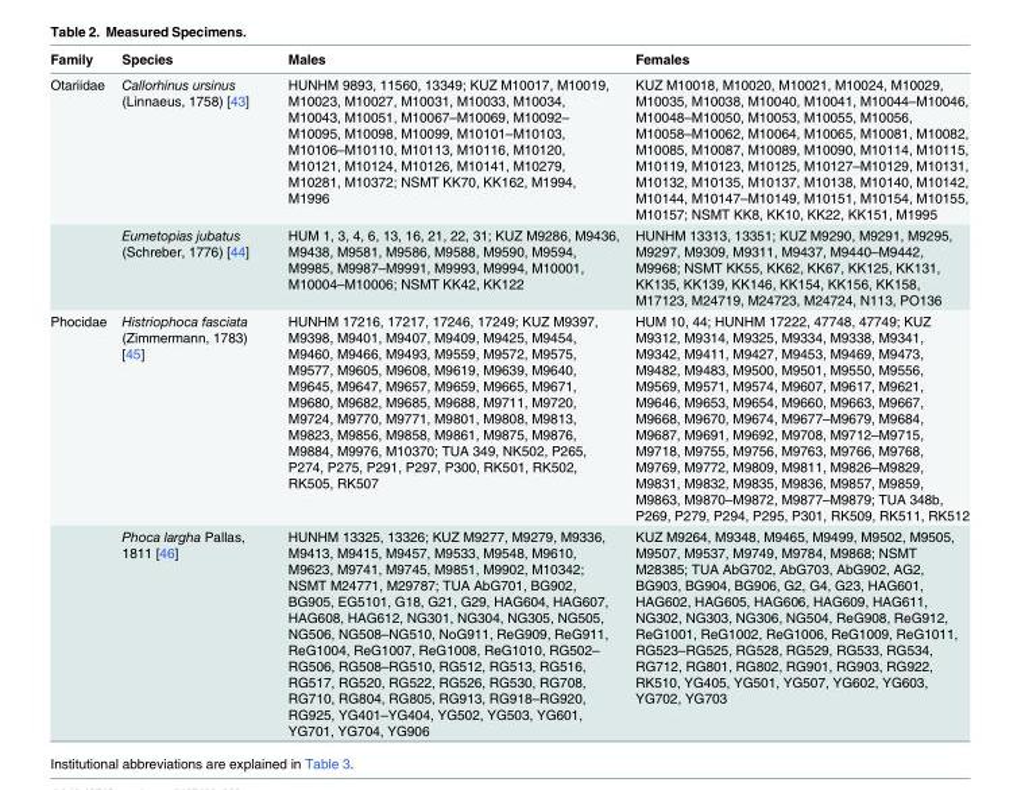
<table><thead><tr><td>Family</td><td>Species</td><td>Males</td><td>Females</td></tr></thead><tbody><tr><td rowspan="2">Otariidae</td><td>Callorhinus ursinus (Linnaeus, 1758) [43]</td><td>HUNHM 9893, 11560, 13349; KUZ M10017, M10019, M10023, M10027, M10031, M10033, M10034, M10043, M10051, M10067–M10069, M10092– M10095, M10098, M10099, M10101–M10103, M10106–M10110, M10113, M10116, M10120, M10121, M10124, M10126, M10141, M10279, M10281, M10372; NSMT KK70, KK162, M1994, M1996</td><td>KUZ M10018, M10020, M10021, M10024, M10029, M10035, M10038, M10040, M10041, M10044–M10046, M10048–M10050, M10053, M10055, M10056, M10058–M10062, M10064, M10065, M10081, M10082, M10085, M10087, M10089, M10090, M10114, M10115, M10119, M10123, M10125, M10127–M10129, M10131, M10132, M10135, M10137, M10138, M10140, M10142, M10144, M10147–M10149, M10151, M10154, M10155, M10157; NSMT KK8, KK10, KK22, KK151, M1995</td></tr><tr><td>Eumetopias jubatus (Schreber, 1776) [44]</td><td>HUM 1, 3, 4, 6, 13, 16, 21, 22, 31; KUZ M9286, M9436, M9438, M9581, M9586, M9588, M9590, M9594, M9985, M9987–M9991, M9993, M9994, M10001, M10004–M10006; NSMT KK42, KK122</td><td>HUNHM 13313, 13351; KUZ M9290, M9291, M9295, M9297, M9309, M9311, M9437, M9440–M9442, M9968; NSMT KK55, KK62, KK67, KK125, KK131, KK135, KK139, KK146, KK154, KK156, KK158, M17123, M24719, M24723, M24724, N113, PO136</td></tr><tr><td rowspan="2">Phocidae</td><td>Histriophoca fasciata (Zimmermann, 1783) [45]</td><td>HUNHM 17216, 17217, 17246, 17249; KUZ M9397, M9398, M9401, M9407, M9409, M9425, M9454, M9460, M9466, M9493, M9559, M9572, M9575, M9577, M9605, M9608, M9619, M9639, M9640, M9645, M9647, M9657, M9659, M9665, M9671, M9680, M9682, M9685, M9688, M9711, M9720, M9724, M9770, M9771, M9801, M9808, M9813, M9823, M9856, M9858, M9861, M9875, M9876, M9884, M9976, M10370; TUA 349, NK502, P265, P274, P275, P291, P297, P300, RK501, RK502, RK505, RK507</td><td>HUM 10, 44; HUNHM 17222, 47748, 47749; KUZ M9312, M9314, M9325, M9334, M9338, M9341, M9342, M9411, M9427, M9453, M9469, M9473, M9482, M9483, M9500, M9501, M9550, M9556, M9569, M9571, M9574, M9607, M9617, M9621, M9646, M9653, M9654, M9660, M9663, M9667, M9668, M9670, M9674, M9677–M9679, M9684, M9687, M9691, M9692, M9708, M9712–M9715, M9718, M9755, M9756, M9763, M9766, M9768, M9769, M9772, M9809, M9811, M9826–M9829, M9831, M9832, M9835, M9836, M9857, M9859, M9863, M9870–M9872, M9877–M9879; TUA 348b, P269, P279, P294, P295, P301, RK509, RK511, RK512</td></tr><tr><td>Phoca largha Pallas, 1811 [46]</td><td>HUNHM 13325, 13326; KUZ M9277, M9279, M9336, M9413, M9415, M9457, M9533, M9548, M9610, M9623, M9741, M9745, M9851, M9902, M10342; NSMT M24771, M29787; TUA AbG701, BG902, BG905, EG5101, G18, G21, G29, HAG604, HAG607, HAG608, HAG612, NG301, NG304, NG305, NG505, NG506, NG508–NG510, NoG911, ReG909, ReG911, ReG1004, ReG1007, ReG1008, ReG1010, RG502– RG506, RG508–RG510, RG512, RG513, RG516, RG517, RG520, RG522, RG526, RG530, RG708, RG710, RG804, RG805, RG913, RG918–RG920, RG925, YG401–YG404, YG502, YG503, YG601, YG701, YG704, YG906</td><td>KUZ M9264, M9348, M9465, M9499, M9502, M9505, M9507, M9537, M9749, M9784, M9868; NSMT M28385; TUA AbG702, AbG703, AbG902, AG2, BG903, BG904, BG906, G2, G4, G23, HAG601, HAG602, HAG605, HAG606, HAG609, HAG611, NG302, NG303, NG306, NG504, ReG908, ReG912, ReG1001, ReG1002, ReG1006, ReG1009, ReG1011, RG523–RG525, RG528, RG529, RG533, RG534, RG712, RG801, RG802, RG901, RG903, RG922, RK510, YG405, YG501, YG507, YG602, YG603, YG702, YG703</td></tr></tbody></table>